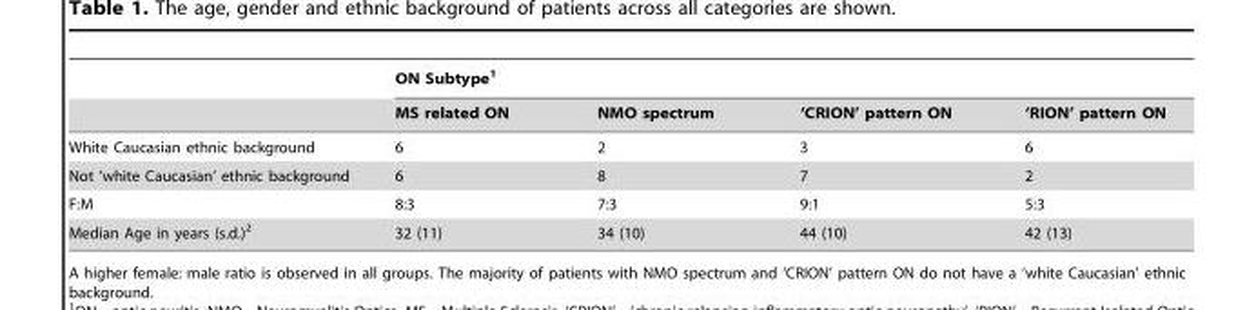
<table><thead><tr><td rowspan="2"></td><td colspan="4">ON Subtype<sup>1</sup></td></tr><tr><td>MS related ON</td><td>NMO spectrum</td><td>‘CRION’ pattern ON</td><td>‘RION’ pattern ON</td></tr></thead><tbody><tr><td>White Caucasian ethnic background</td><td>6</td><td>2</td><td>3</td><td>6</td></tr><tr><td>Not ‘white Caucasian’ ethnic background</td><td>6</td><td>8</td><td>7</td><td>2</td></tr><tr><td>F:M</td><td>8:3</td><td>7:3</td><td>9:1</td><td>5:3</td></tr><tr><td>Median Age in years (s.d.)<sup>2</sup></td><td>32 (11)</td><td>34 (10)</td><td>44 (10)</td><td>42 (13)</td></tr></tbody></table>